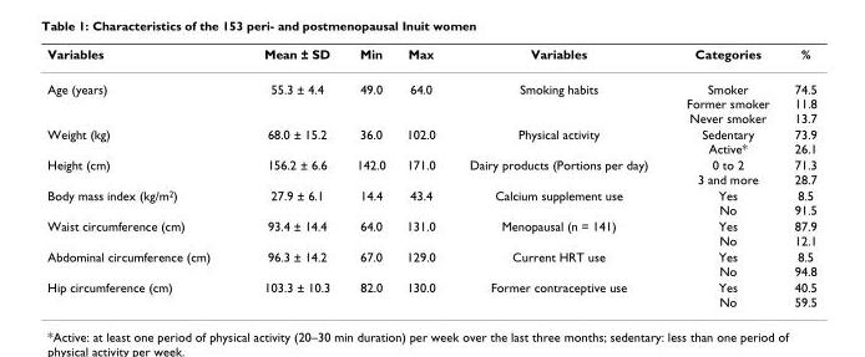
<table><thead><tr><td>Variables</td><td>Mean ± SD</td><td>Min</td><td>Max</td><td>Variables</td><td>Categories</td><td>%</td></tr></thead><tbody><tr><td>Age (years)</td><td>55.3 ± 4.4</td><td>49.0</td><td>64.0</td><td>Smoking habits</td><td>Smoker Former smoker Never smoker</td><td>74.5 11.8 13.7</td></tr><tr><td>Weight (kg)</td><td>68.0 ± 15.2</td><td>36.0</td><td>102.0</td><td>Physical activity</td><td>Sedentary Active*</td><td>73.9 26.1</td></tr><tr><td>Height (cm)</td><td>156.2 ± 6.6</td><td>142.0</td><td>171.0</td><td>Dairy products (Portions per day)</td><td>0 to 2 3 and more</td><td>71.3 28.7</td></tr><tr><td>Body mass index (kg/m<sup>2</sup>)</td><td>27.9 ± 6.1</td><td>14.4</td><td>43.4</td><td>Calcium supplement use</td><td>Yes No</td><td>8.5 91.5</td></tr><tr><td>Waist circumference (cm)</td><td>93.4 ± 14.4</td><td>64.0</td><td>131.0</td><td>Menopausal (n = 141)</td><td>Yes No</td><td>87.9 12.1</td></tr><tr><td>Abdominal circumference (cm)</td><td>96.3 ± 14.2</td><td>67.0</td><td>129.0</td><td>Current HRT use</td><td>Yes No</td><td>8.5 94.8</td></tr><tr><td>Hip circumference (cm)</td><td>103.3 ± 10.3</td><td>82.0</td><td>130.0</td><td>Former contraceptive use</td><td>Yes No</td><td>40.5 59.5</td></tr></tbody></table>